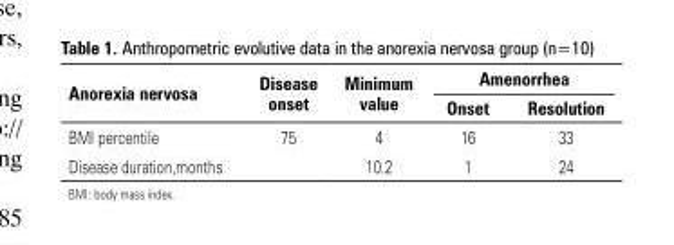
<table><thead><tr><td rowspan="2">Anorexia nervosa</td><td rowspan="2">Disease onset</td><td rowspan="2">Minimum value</td><td colspan="2">Amenorrhea</td></tr><tr><td>Onset</td><td>Resolution</td></tr></thead><tbody><tr><td>BMI percentile</td><td>75</td><td>4</td><td>16</td><td>33</td></tr><tr><td>Disease duration,months</td><td></td><td>10.2</td><td>1</td><td>24</td></tr></tbody></table>